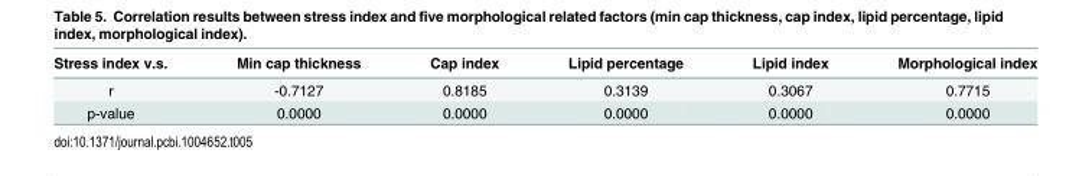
<table><thead><tr><td>Stress index v.s.</td><td>Min cap thickness</td><td>Cap index</td><td>Lipid percentage</td><td>Lipid index</td><td>Morphological index</td></tr></thead><tbody><tr><td>r</td><td>-0.7127</td><td>0.8185</td><td>0.3139</td><td>0.3067</td><td>0.7715</td></tr><tr><td>p-value</td><td>0.0000</td><td>0.0000</td><td>0.0000</td><td>0.0000</td><td>0.0000</td></tr></tbody></table>